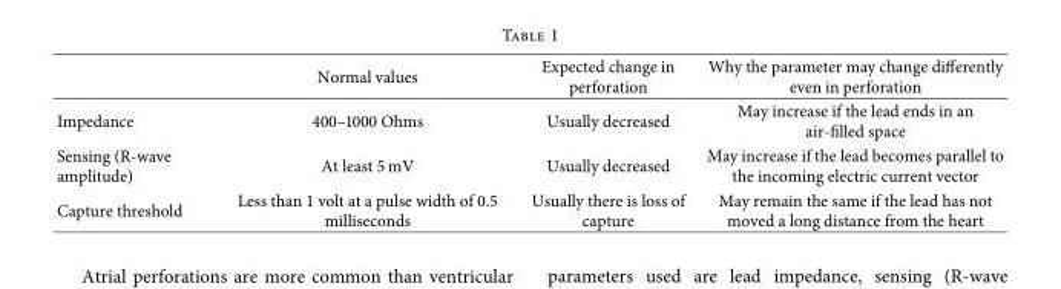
<table><thead><tr><td></td><td>Normal values</td><td>Expected change in perforation</td><td>Why the parameter may change diferently even in perforation</td></tr></thead><tbody><tr><td>Impedance</td><td>400–1000 Ohms</td><td>Usually decreased</td><td>May increase if the lead ends in an air-flled space</td></tr><tr><td>Sensing (R-wave amplitude)</td><td>At least 5 mV</td><td>Usually decreased</td><td>May increase if the lead becomes parallel to the incoming electric current vector</td></tr><tr><td>Capture threshold</td><td>Less than 1 volt at a pulse width of 0.5 milliseconds</td><td>Usually there is loss of capture</td><td>May remain the same if the lead has not moved a long distance from the heart</td></tr></tbody></table>